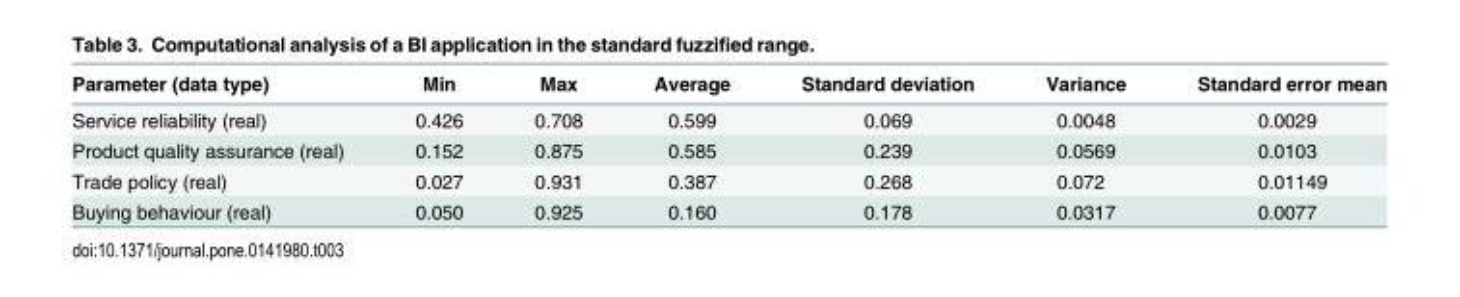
<table><thead><tr><td>Parameter (data type)</td><td>Min</td><td>Max</td><td>Average</td><td>Standard deviation</td><td>Variance</td><td>Standard error mean</td></tr></thead><tbody><tr><td>Service reliability (real)</td><td>0.426</td><td>0.708</td><td>0.599</td><td>0.069</td><td>0.0048</td><td>0.0029</td></tr><tr><td>Product quality assurance (real)</td><td>0.152</td><td>0.875</td><td>0.585</td><td>0.239</td><td>0.0569</td><td>0.0103</td></tr><tr><td>Trade policy (real)</td><td>0.027</td><td>0.931</td><td>0.387</td><td>0.268</td><td>0.072</td><td>0.01149</td></tr><tr><td>Buying behaviour (real)</td><td>0.050</td><td>0.925</td><td>0.160</td><td>0.178</td><td>0.0317</td><td>0.0077</td></tr></tbody></table>